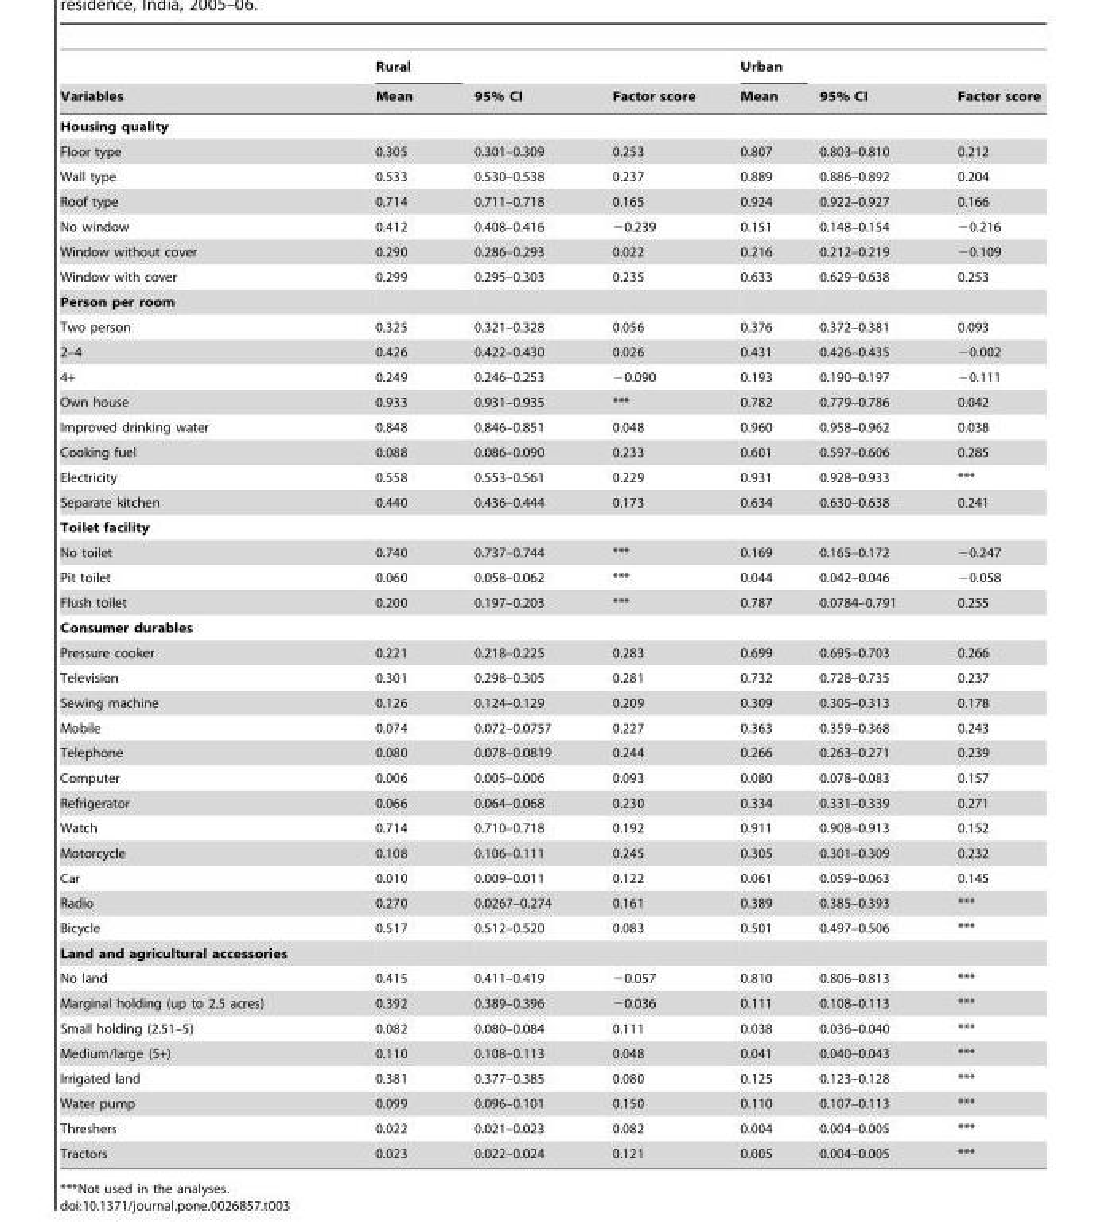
<table><thead><tr><td rowspan="2">Variables</td><td rowspan="2">Rural Mean</td><td rowspan="2">95% CI</td><td rowspan="2">Factor score</td><td rowspan="2">Urban Mean</td><td rowspan="2">95% CI</td><td rowspan="2">Factor score</td></tr><tr></tr></thead><tbody><tr><td colspan="7">Housing quality</td></tr><tr><td>Floor type</td><td>0.305</td><td>0.301–0.309</td><td>0.253</td><td>0.807</td><td>0.803–0.810</td><td>0.212</td></tr><tr><td>Wall type</td><td>0.533</td><td>0.530–0.538</td><td>0.237</td><td>0.889</td><td>0.886–0.892</td><td>0.204</td></tr><tr><td>Roof type</td><td>0.714</td><td>0.711–0.718</td><td>0.165</td><td>0.924</td><td>0.922–0.927</td><td>0.166</td></tr><tr><td>No window</td><td>0.412</td><td>0.408–0.416</td><td>−0.239</td><td>0.151</td><td>0.148–0.154</td><td>−0.216</td></tr><tr><td>Window without cover</td><td>0.290</td><td>0.286–0.293</td><td>0.022</td><td>0.216</td><td>0.212–0.219</td><td>−0.109</td></tr><tr><td>Window with cover</td><td>0.299</td><td>0.295–0.303</td><td>0.235</td><td>0.633</td><td>0.629–0.638</td><td>0.253</td></tr><tr><td colspan="7">Person per room</td></tr><tr><td>Two person</td><td>0.325</td><td>0.321–0.328</td><td>0.056</td><td>0.376</td><td>0.372–0.381</td><td>0.093</td></tr><tr><td>2–4</td><td>0.426</td><td>0.422–0.430</td><td>0.026</td><td>0.431</td><td>0.426–0.435</td><td>−0.002</td></tr><tr><td>4+</td><td>0.249</td><td>0.246–0.253</td><td>−0.090</td><td>0.193</td><td>0.190–0.197</td><td>−0.111</td></tr><tr><td>Own house</td><td>0.933</td><td>0.931–0.935</td><td>***</td><td>0.782</td><td>0.779–0.786</td><td>0.042</td></tr><tr><td>Improved drinking water</td><td>0.848</td><td>0.846–0.851</td><td>0.048</td><td>0.960</td><td>0.958–0.962</td><td>0.038</td></tr><tr><td>Cooking fuel</td><td>0.088</td><td>0.086–0.090</td><td>0.233</td><td>0.601</td><td>0.597–0.606</td><td>0.285</td></tr><tr><td>Electricity</td><td>0.558</td><td>0.553–0.561</td><td>0.229</td><td>0.931</td><td>0.928–0.933</td><td>***</td></tr><tr><td>Separate kitchen</td><td>0.440</td><td>0.436–0.444</td><td>0.173</td><td>0.634</td><td>0.630–0.638</td><td>0.241</td></tr><tr><td colspan="7">Toilet facility</td></tr><tr><td>No toilet</td><td>0.740</td><td>0.737–0.744</td><td>***</td><td>0.169</td><td>0.165–0.172</td><td>−0.247</td></tr><tr><td>Pit toilet</td><td>0.060</td><td>0.058–0.062</td><td>***</td><td>0.044</td><td>0.042–0.046</td><td>−0.058</td></tr><tr><td>Flush toilet</td><td>0.200</td><td>0.197–0.203</td><td>***</td><td>0.787</td><td>0.0784–0.791</td><td>0.255</td></tr><tr><td colspan="7">Consumer durables</td></tr><tr><td>Pressure cooker</td><td>0.221</td><td>0.218–0.225</td><td>0.283</td><td>0.699</td><td>0.695–0.703</td><td>0.266</td></tr><tr><td>Television</td><td>0.301</td><td>0.298–0.305</td><td>0.281</td><td>0.732</td><td>0.728–0.735</td><td>0.237</td></tr><tr><td>Sewing machine</td><td>0.126</td><td>0.124–0.129</td><td>0.209</td><td>0.309</td><td>0.305–0.313</td><td>0.178</td></tr><tr><td>Mobile</td><td>0.074</td><td>0.072–0.0757</td><td>0.227</td><td>0.363</td><td>0.359–0.368</td><td>0.243</td></tr><tr><td>Telephone</td><td>0.080</td><td>0.078–0.0819</td><td>0.244</td><td>0.266</td><td>0.263–0.271</td><td>0.239</td></tr><tr><td>Computer</td><td>0.006</td><td>0.005–0.006</td><td>0.093</td><td>0.080</td><td>0.078–0.083</td><td>0.157</td></tr><tr><td>Refrigerator</td><td>0.066</td><td>0.064–0.068</td><td>0.230</td><td>0.334</td><td>0.331–0.339</td><td>0.271</td></tr><tr><td>Watch</td><td>0.714</td><td>0.710–0.718</td><td>0.192</td><td>0.911</td><td>0.908–0.913</td><td>0.152</td></tr><tr><td>Motorcycle</td><td>0.108</td><td>0.106–0.111</td><td>0.245</td><td>0.305</td><td>0.301–0.309</td><td>0.232</td></tr><tr><td>Car</td><td>0.010</td><td>0.009–0.011</td><td>0.122</td><td>0.061</td><td>0.059–0.063</td><td>0.145</td></tr><tr><td>Radio</td><td>0.270</td><td>0.0267–0.274</td><td>0.161</td><td>0.389</td><td>0.385–0.393</td><td>***</td></tr><tr><td>Bicycle</td><td>0.517</td><td>0.512–0.520</td><td>0.083</td><td>0.501</td><td>0.497–0.506</td><td>***</td></tr><tr><td colspan="7">Land and agricultural accessories</td></tr><tr><td>No land</td><td>0.415</td><td>0.411–0.419</td><td>−0.057</td><td>0.810</td><td>0.806–0.813</td><td>***</td></tr><tr><td>Marginal holding (up to 2.5 acres)</td><td>0.392</td><td>0.389–0.396</td><td>−0.036</td><td>0.111</td><td>0.108–0.113</td><td>***</td></tr><tr><td>Small holding (2.51–5)</td><td>0.082</td><td>0.080–0.084</td><td>0.111</td><td>0.038</td><td>0.036–0.040</td><td>***</td></tr><tr><td>Medium/large (5+)</td><td>0.110</td><td>0.108–0.113</td><td>0.048</td><td>0.041</td><td>0.040–0.043</td><td>***</td></tr><tr><td>Irrigated land</td><td>0.381</td><td>0.377–0.385</td><td>0.080</td><td>0.125</td><td>0.123–0.128</td><td>***</td></tr><tr><td>Water pump</td><td>0.099</td><td>0.096–0.101</td><td>0.150</td><td>0.110</td><td>0.107–0.113</td><td>***</td></tr><tr><td>Threshers</td><td>0.022</td><td>0.021–0.023</td><td>0.082</td><td>0.004</td><td>0.004–0.005</td><td>***</td></tr><tr><td>Tractors</td><td>0.023</td><td>0.022–0.024</td><td>0.121</td><td>0.005</td><td>0.004–0.005</td><td>***</td></tr></tbody></table>